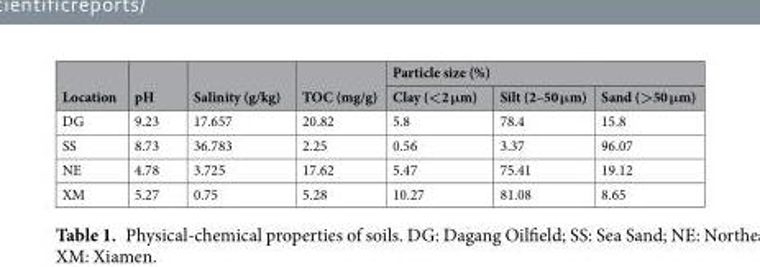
<table><thead><tr><td rowspan="2">Location</td><td rowspan="2">pH</td><td rowspan="2">Salinity (g/kg)</td><td rowspan="2">TOC (mg/g)</td><td colspan="3">Particle size (%)</td></tr><tr><td>Clay (&lt;2 μm)</td><td>Silt (2–50 μm)</td><td>Sand (&gt;50 μm)</td></tr></thead><tbody><tr><td>DG</td><td>9.23</td><td>17.657</td><td>20.82</td><td>5.8</td><td>78.4</td><td>15.8</td></tr><tr><td>SS</td><td>8.73</td><td>36.783</td><td>2.25</td><td>0.56</td><td>3.37</td><td>96.07</td></tr><tr><td>NE</td><td>4.78</td><td>3.725</td><td>17.62</td><td>5.47</td><td>75.41</td><td>19.12</td></tr><tr><td>XM</td><td>5.27</td><td>0.75</td><td>5.28</td><td>10.27</td><td>81.08</td><td>8.65</td></tr></tbody></table>